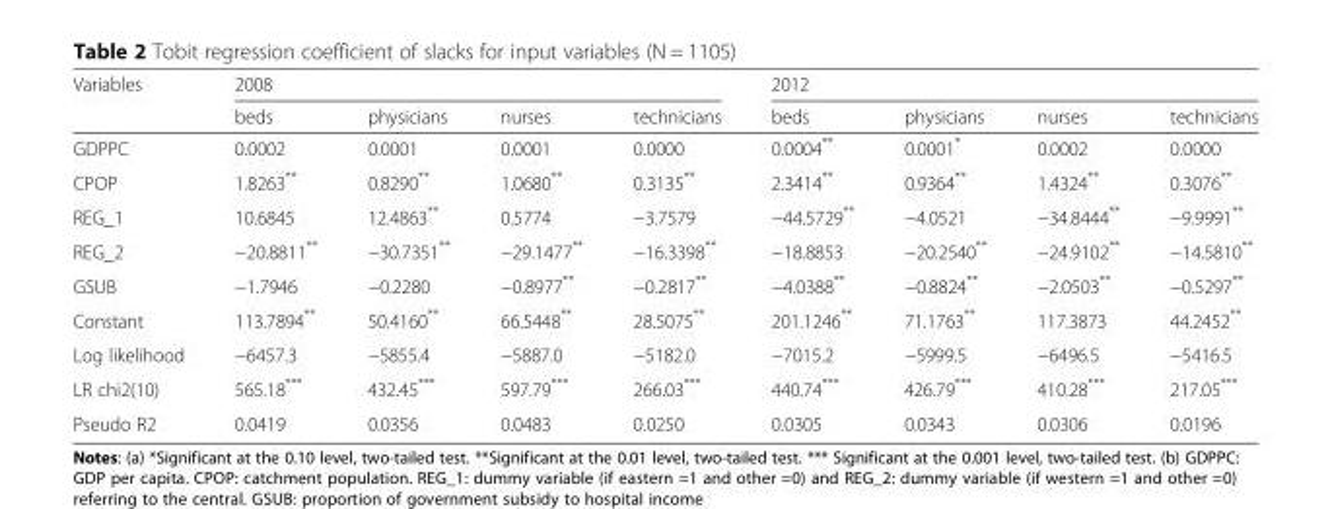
<table><thead><tr><td rowspan="2">Variables</td><td colspan="4">2008</td><td colspan="4">2012</td></tr><tr><td>beds</td><td>physicians</td><td>nurses</td><td>technicians</td><td>beds</td><td>physicians</td><td>nurses</td><td>technicians</td></tr></thead><tbody><tr><td>GDPPC</td><td>0.0002</td><td>0.0001</td><td>0.0001</td><td>0.0000</td><td>0.0004**</td><td>0.0001*</td><td>0.0002</td><td>0.0000</td></tr><tr><td>CPOP</td><td>1.8263**</td><td>0.8290**</td><td>1.0680**</td><td>0.3135**</td><td>2.3414**</td><td>0.9364**</td><td>1.4324**</td><td>0.3076**</td></tr><tr><td>REG_1</td><td>10.6845</td><td>12.4863**</td><td>0.5774</td><td>−3.7579</td><td>−44.5729**</td><td>−4.0521</td><td>−34.8444**</td><td>−9.9991**</td></tr><tr><td>REG_2</td><td>−20.8811**</td><td>−30.7351**</td><td>−29.1477**</td><td>−16.3398**</td><td>−18.8853</td><td>−20.2540**</td><td>−24.9102**</td><td>−14.5810**</td></tr><tr><td>GSUB</td><td>−1.7946</td><td>−0.2280</td><td>−0.8977**</td><td>−0.2817**</td><td>−4.0388**</td><td>−0.8824**</td><td>−2.0503**</td><td>−0.5297**</td></tr><tr><td>Constant</td><td>113.7894**</td><td>50.4160**</td><td>66.5448**</td><td>28.5075**</td><td>201.1246**</td><td>71.1763**</td><td>117.3873</td><td>44.2452**</td></tr><tr><td>Log likelihood</td><td>−6457.3</td><td>−5855.4</td><td>−5887.0</td><td>−5182.0</td><td>−7015.2</td><td>−5999.5</td><td>−6496.5</td><td>−5416.5</td></tr><tr><td>LR chi2(10)</td><td>565.18***</td><td>432.45***</td><td>597.79***</td><td>266.03***</td><td>440.74***</td><td>426.79***</td><td>410.28***</td><td>217.05***</td></tr><tr><td>Pseudo R2</td><td>0.0419</td><td>0.0356</td><td>0.0483</td><td>0.0250</td><td>0.0305</td><td>0.0343</td><td>0.0306</td><td>0.0196</td></tr></tbody></table>